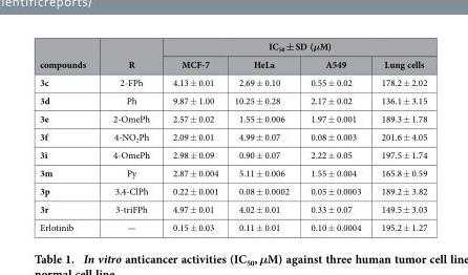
<table><thead><tr><td rowspan="2">compounds</td><td rowspan="2">R</td><td colspan="4">IC<sub>50</sub> ± SD (μM)</td></tr><tr><td>MCF-7</td><td>HeLa</td><td>A549</td><td>Lung cells</td></tr></thead><tbody><tr><td>3c</td><td>2-FPh</td><td>4.13 ± 0.01</td><td>2.69 ± 0.10</td><td>0.55 ± 0.02</td><td>178.2 ± 2.02</td></tr><tr><td>3d</td><td>Ph</td><td>9.87 ± 1.00</td><td>10.25 ± 0.28</td><td>2.17 ± 0.02</td><td>136.1 ± 3.15</td></tr><tr><td>3e</td><td>2-OmePh</td><td>2.57 ± 0.02</td><td>1.55 ± 0.006</td><td>1.97 ± 0.001</td><td>189.3 ± 1.78</td></tr><tr><td>3f</td><td>4-NO<sub>2</sub>Ph</td><td>2.09 ± 0.01</td><td>4.99 ± 0.07</td><td>0.08 ± 0.003</td><td>201.6 ± 4.05</td></tr><tr><td>3i</td><td>4-OmePh</td><td>2.98 ± 0.09</td><td>0.90 ± 0.07</td><td>2.22 ± 0.05</td><td>197.5 ± 1.74</td></tr><tr><td>3m</td><td>Py</td><td>2.87 ± 0.004</td><td>5.11 ± 0.006</td><td>1.55 ± 0.004</td><td>165.8 ± 0.59</td></tr><tr><td>3p</td><td>3,4-ClPh</td><td>0.22 ± 0.001</td><td>0.08 ± 0.0002</td><td>0.05 ± 0.0003</td><td>189.2 ± 3.82</td></tr><tr><td>3r</td><td>3-triFPh</td><td>4.97 ± 0.01</td><td>4.02 ± 0.01</td><td>0.33 ± 0.07</td><td>149.5 ± 3.03</td></tr><tr><td>Erlotinib</td><td>—</td><td>0.15 ± 0.03</td><td>0.11 ± 0.01</td><td>0.10 ± 0.0004</td><td>195.2 ± 1.27</td></tr></tbody></table>